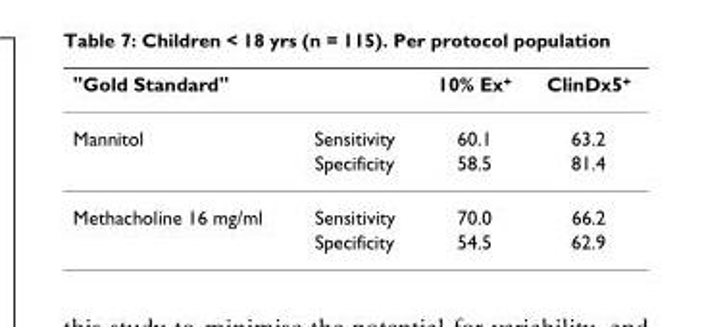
<table><thead><tr><td>&quot;Gold Standard&quot;</td><td></td><td>10% Ex<sup>+</sup></td><td>ClinDx5<sup>+</sup></td></tr></thead><tbody><tr><td rowspan="2">Mannitol</td><td>Sensitivity</td><td>60.1</td><td>63.2</td></tr><tr><td>Specificity</td><td>58.5</td><td>81.4</td></tr><tr><td rowspan="2">Methacholine 16 mg/ml</td><td>Sensitivity</td><td>70.0</td><td>66.2</td></tr><tr><td>Specificity</td><td>54.5</td><td>62.9</td></tr></tbody></table>